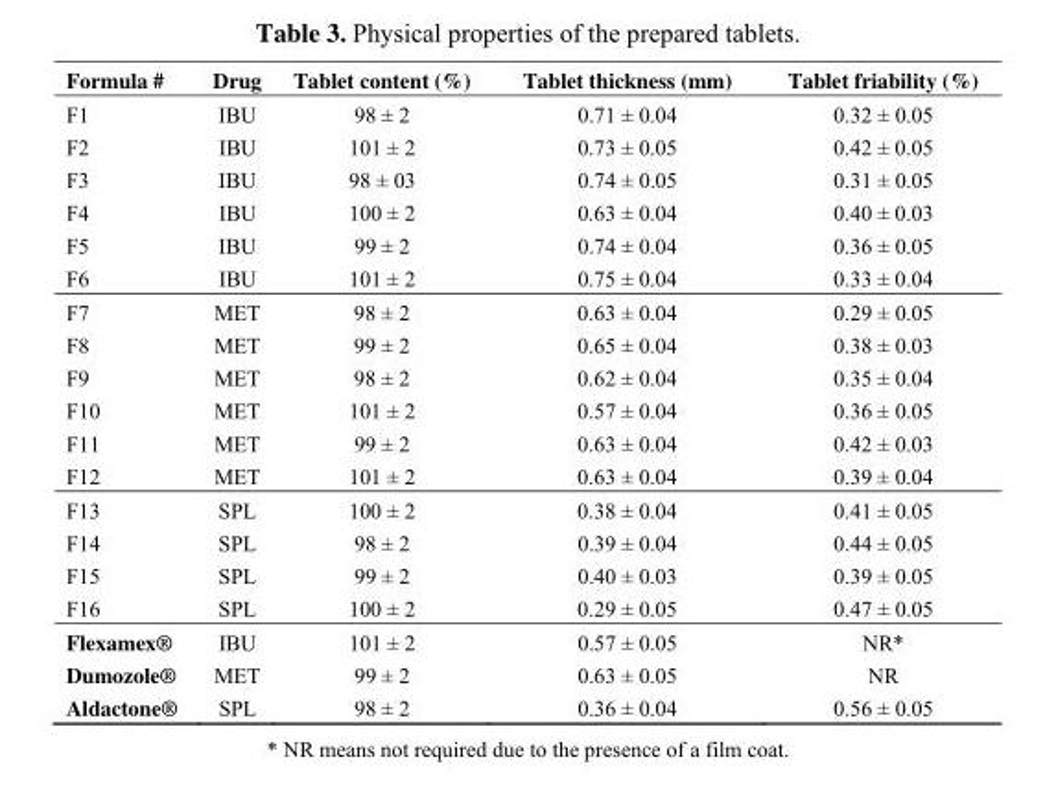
<table><thead><tr><td>Formula #</td><td>Drug</td><td>Tablet content (%)</td><td>Tablet thickness (mm)</td><td>Tablet friability (%)</td></tr></thead><tbody><tr><td>F1</td><td>IBU</td><td>98 ± 2</td><td>0.71 ± 0.04</td><td>0.32 ± 0.05</td></tr><tr><td>F2</td><td>IBU</td><td>101 ± 2</td><td>0.73 ± 0.05</td><td>0.42 ± 0.05</td></tr><tr><td>F3</td><td>IBU</td><td>98 ± 03</td><td>0.74 ± 0.05</td><td>0.31 ± 0.05</td></tr><tr><td>F4</td><td>IBU</td><td>100 ± 2</td><td>0.63 ± 0.04</td><td>0.40 ± 0.03</td></tr><tr><td>F5</td><td>IBU</td><td>99 ± 2</td><td>0.74 ± 0.04</td><td>0.36 ± 0.05</td></tr><tr><td>F6</td><td>IBU</td><td>101 ± 2</td><td>0.75 ± 0.04</td><td>0.33 ± 0.04</td></tr><tr><td>F7</td><td>MET</td><td>98 ± 2</td><td>0.63 ± 0.04</td><td>0.29 ± 0.05</td></tr><tr><td>F8</td><td>MET</td><td>99 ± 2</td><td>0.65 ± 0.04</td><td>0.38 ± 0.03</td></tr><tr><td>F9</td><td>MET</td><td>98 ± 2</td><td>0.62 ± 0.04</td><td>0.35 ± 0.04</td></tr><tr><td>F10</td><td>MET</td><td>101 ± 2</td><td>0.57 ± 0.04</td><td>0.36 ± 0.05</td></tr><tr><td>F11</td><td>MET</td><td>99 ± 2</td><td>0.63 ± 0.04</td><td>0.42 ± 0.03</td></tr><tr><td>F12</td><td>MET</td><td>101 ± 2</td><td>0.63 ± 0.04</td><td>0.39 ± 0.04</td></tr><tr><td>F13</td><td>SPL</td><td>100 ± 2</td><td>0.38 ± 0.04</td><td>0.41 ± 0.05</td></tr><tr><td>F14</td><td>SPL</td><td>98 ± 2</td><td>0.39 ± 0.04</td><td>0.44 ± 0.05</td></tr><tr><td>F15</td><td>SPL</td><td>99 ± 2</td><td>0.40 ± 0.03</td><td>0.39 ± 0.05</td></tr><tr><td>F16</td><td>SPL</td><td>100 ± 2</td><td>0.29 ± 0.05</td><td>0.47 ± 0.05</td></tr><tr><td>Flexamex®</td><td>IBU</td><td>101 ± 2</td><td>0.57 ± 0.05</td><td>NR*</td></tr><tr><td>Dumozole®</td><td>MET</td><td>99 ± 2</td><td>0.63 ± 0.05</td><td>NR</td></tr><tr><td>Aldactone®</td><td>SPL</td><td>98 ± 2</td><td>0.36 ± 0.04</td><td>0.56 ± 0.05</td></tr></tbody></table>